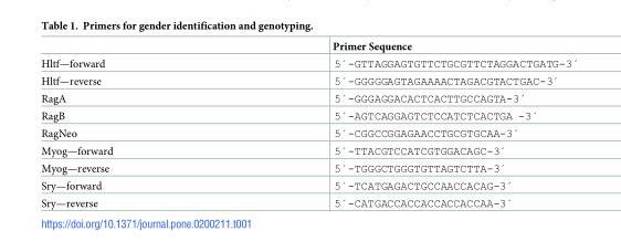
<table><thead><tr><td></td><td>Primer Sequence</td></tr></thead><tbody><tr><td>Hltf—forward</td><td>5´-GTTAGGAGTGTTCTGCGTTCTAGGACTGATG-3´</td></tr><tr><td>Hltf—reverse</td><td>5´-GGGGGAGTAGAAAACTAGACGTACTGAC-3´</td></tr><tr><td>RagA</td><td>5´-GGGAGGACACTCACTTGCCAGTA-3´</td></tr><tr><td>RagB</td><td>5´-AGTCAGGAGTCTCCATCTCACTGA -3´</td></tr><tr><td>RagNeo</td><td>5´-CGGCCGGAGAACCTGCGTGCAA-3´</td></tr><tr><td>Myog—forward</td><td>5´-TTACGTCCATCGTGGACAGC-3´</td></tr><tr><td>Myog—reverse</td><td>5´-TGGGCTGGGTGTTAGTCTTA-3´</td></tr><tr><td>Sry—forward</td><td>5´-TCATGAGACTGCCAACCACAG-3´</td></tr><tr><td>Sry—reverse</td><td>5´-CATGACCACCACCACCACCAA-3´</td></tr></tbody></table>